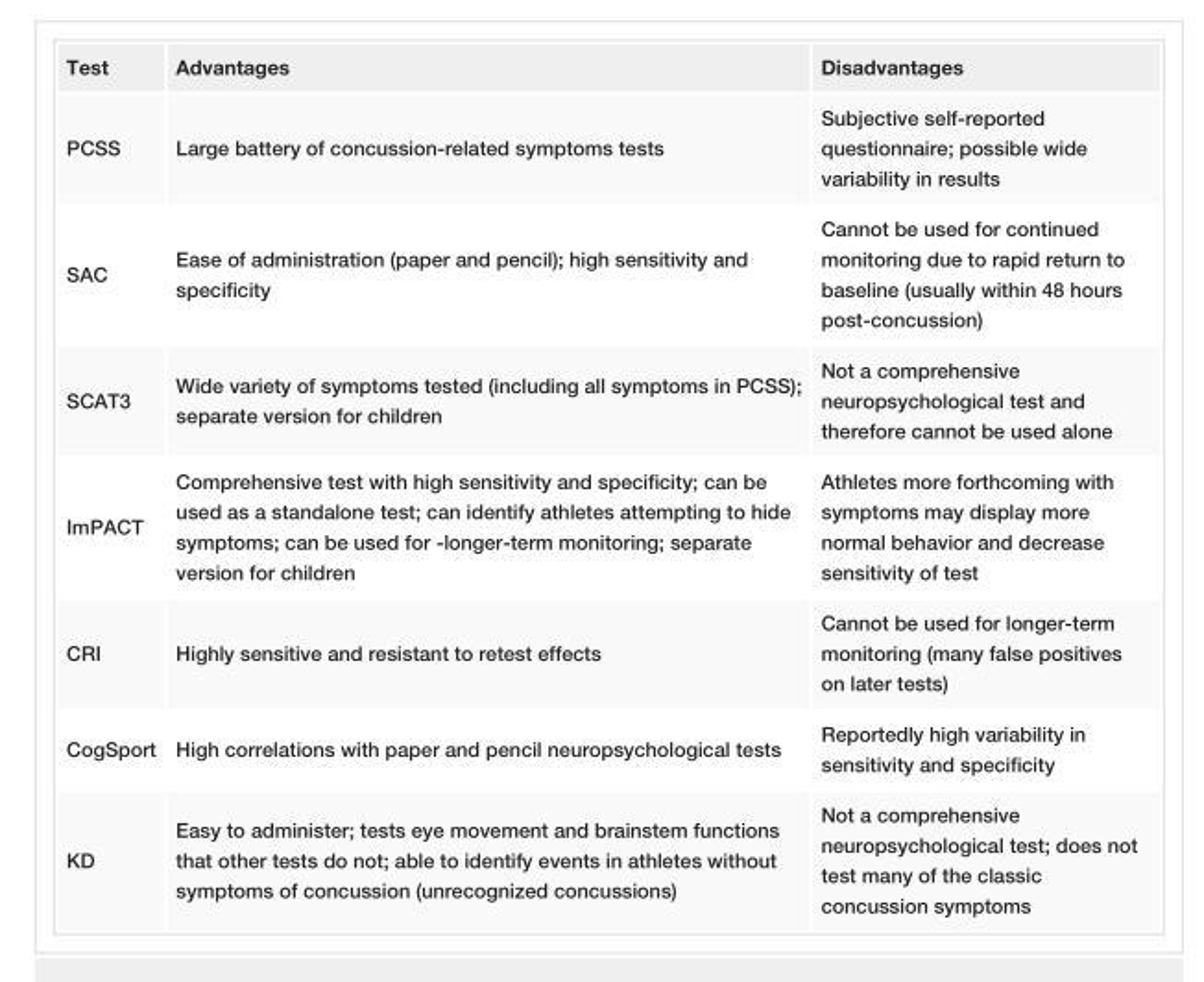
<table><tbody><tr><td>Test</td><td>Advantages</td><td>Disadvantages</td></tr><tr><td>PCSS</td><td>Large battery of concussion-related symptoms tests</td><td>Subjective self-reported questionnaire; possible wide variability in results</td></tr><tr><td>SAC</td><td>Ease of administration (paper and pencil); high sensitivity and specificity</td><td>Cannot be used for continued monitoring due to rapid return to baseline (usually within 48 hours post-concussion)</td></tr><tr><td>SCAT3</td><td>Wide variety of symptoms tested (including all symptoms in PCSS); separate version for children</td><td>Not a comprehensive neuropsychological test and therefore cannot be used alone</td></tr><tr><td>ImPACT</td><td>Comprehensive test with high sensitivity and specificity; can be used as a standalone test; can identify athletes attempting to hide symptoms; can be used for -longer-term monitoring; separate version for children</td><td>Athletes more forthcoming with symptoms may display more normal behavior and decrease sensitivity of test</td></tr><tr><td>CRI</td><td>Highly sensitive and resistant to retest effects</td><td>Cannot be used for longer-term monitoring (many false positives on later tests)</td></tr><tr><td>CogSport</td><td>High correlations with paper and pencil neuropsychological tests</td><td>Reportedly high variability in sensitivity and specificity</td></tr><tr><td>KD</td><td>Easy to administer; tests eye movement and brainstem functions that other tests do not; able to identify events in athletes without symptoms of concussion (unrecognized concussions)</td><td>Not a comprehensive neuropsychological test; does not test many of the classic concussion symptoms</td></tr></tbody></table>